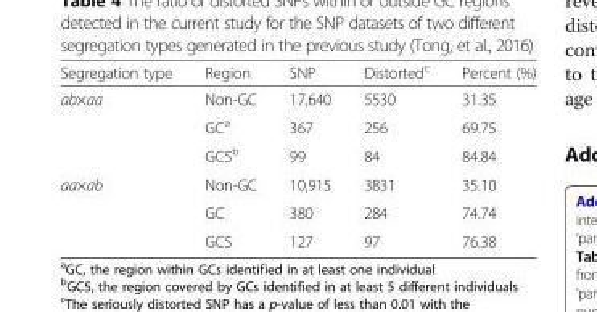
<table><thead><tr><td>Segregation type</td><td>Region</td><td>SNP</td><td>Distorted<sup>c</sup></td><td>Percent (%)</td></tr></thead><tbody><tr><td rowspan="3">ab×aa</td><td>Non-GC</td><td>17,640</td><td>5530</td><td>31.35</td></tr><tr><td>GC<sup>a</sup></td><td>367</td><td>256</td><td>69.75</td></tr><tr><td>GC5<sup>b</sup></td><td>99</td><td>84</td><td>84.84</td></tr><tr><td rowspan="3">aa×ab</td><td>Non-GC</td><td>10,915</td><td>3831</td><td>35.10</td></tr><tr><td>GC</td><td>380</td><td>284</td><td>74.74</td></tr><tr><td>GC5</td><td>127</td><td>97</td><td>76.38</td></tr></tbody></table>